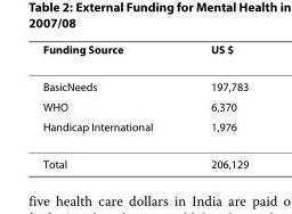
<table><thead><tr><td>Funding Source</td><td>US $</td></tr></thead><tbody><tr><td>BasicNeeds</td><td>197,783</td></tr><tr><td>WHO</td><td>6,370</td></tr><tr><td>Handicap International</td><td>1,976</td></tr><tr><td>Total</td><td>206,129</td></tr></tbody></table>